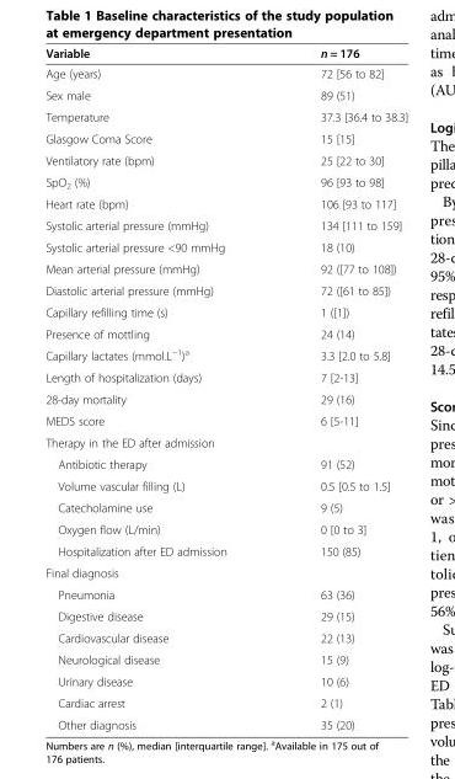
<table><thead><tr><td>Variable</td><td>n = 176</td></tr></thead><tbody><tr><td>Age (years)</td><td>72 [56 to 82]</td></tr><tr><td>Sex male</td><td>89 (51)</td></tr><tr><td>Temperature</td><td>37.3 [36.4 to 38.3]</td></tr><tr><td>Glasgow Coma Score</td><td>15 [15]</td></tr><tr><td>Ventilatory rate (bpm)</td><td>25 [22 to 30]</td></tr><tr><td>SpO<sub>2</sub> (%)</td><td>96 [93 to 98]</td></tr><tr><td>Heart rate (bpm)</td><td>106 [93 to 117]</td></tr><tr><td>Systolic arterial pressure (mmHg)</td><td>134 [111 to 159]</td></tr><tr><td>Systolic arterial pressure &lt;90 mmHg</td><td>18 (10)</td></tr><tr><td>Mean arterial pressure (mmHg)</td><td>92 ([77 to 108])</td></tr><tr><td>Diastolic arterial pressure (mmHg)</td><td>72 ([61 to 85])</td></tr><tr><td>Capillary refilling time (s)</td><td>1 ([1])</td></tr><tr><td>Presence of mottling</td><td>24 (14)</td></tr><tr><td>Capillary lactates (mmol.L<sup>−1</sup>)<sup>a</sup></td><td>3.3 [2.0 to 5.8]</td></tr><tr><td>Length of hospitalization (days)</td><td>7 [2-13]</td></tr><tr><td>28-day mortality</td><td>29 (16)</td></tr><tr><td>MEDS score</td><td>6 [5-11]</td></tr><tr><td colspan="2">Therapy in the ED after admission</td></tr><tr><td>Antibiotic therapy</td><td>91 (52)</td></tr><tr><td>Volume vascular filling (L)</td><td>0.5 [0.5 to 1.5]</td></tr><tr><td>Catecholamine use</td><td>9 (5)</td></tr><tr><td>Oxygen flow (L/min)</td><td>0 [0 to 3]</td></tr><tr><td>Hospitalization after ED admission</td><td>150 (85)</td></tr><tr><td colspan="2">Final diagnosis</td></tr><tr><td>Pneumonia</td><td>63 (36)</td></tr><tr><td>Digestive disease</td><td>29 (15)</td></tr><tr><td>Cardiovascular disease</td><td>22 (13)</td></tr><tr><td>Neurological disease</td><td>15 (9)</td></tr><tr><td>Urinary disease</td><td>10 (6)</td></tr><tr><td>Cardiac arrest</td><td>2 (1)</td></tr><tr><td>Other diagnosis</td><td>35 (20)</td></tr></tbody></table>